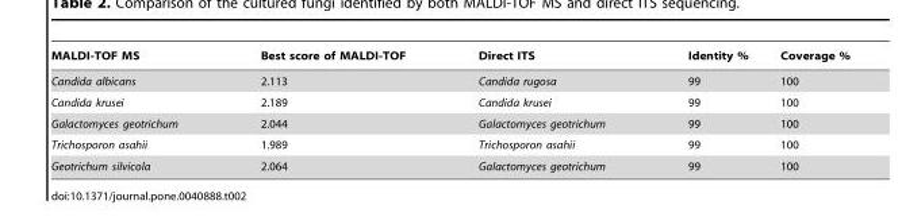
<table><thead><tr><td>MALDI-TOF MS</td><td>Best score of MALDI-TOF</td><td>Direct ITS</td><td>Identity %</td><td>Coverage %</td></tr></thead><tbody><tr><td>Candida albicans</td><td>2.113</td><td>Candida rugosa</td><td>99</td><td>100</td></tr><tr><td>Candida krusei</td><td>2.189</td><td>Candida krusei</td><td>99</td><td>100</td></tr><tr><td>Galactomyces geotrichum</td><td>2.044</td><td>Galactomyces geotrichum</td><td>99</td><td>100</td></tr><tr><td>Trichosporon asahii</td><td>1.989</td><td>Trichosporon asahii</td><td>99</td><td>100</td></tr><tr><td>Geotrichum silvicola</td><td>2.064</td><td>Galactomyces geotrichum</td><td>99</td><td>100</td></tr></tbody></table>